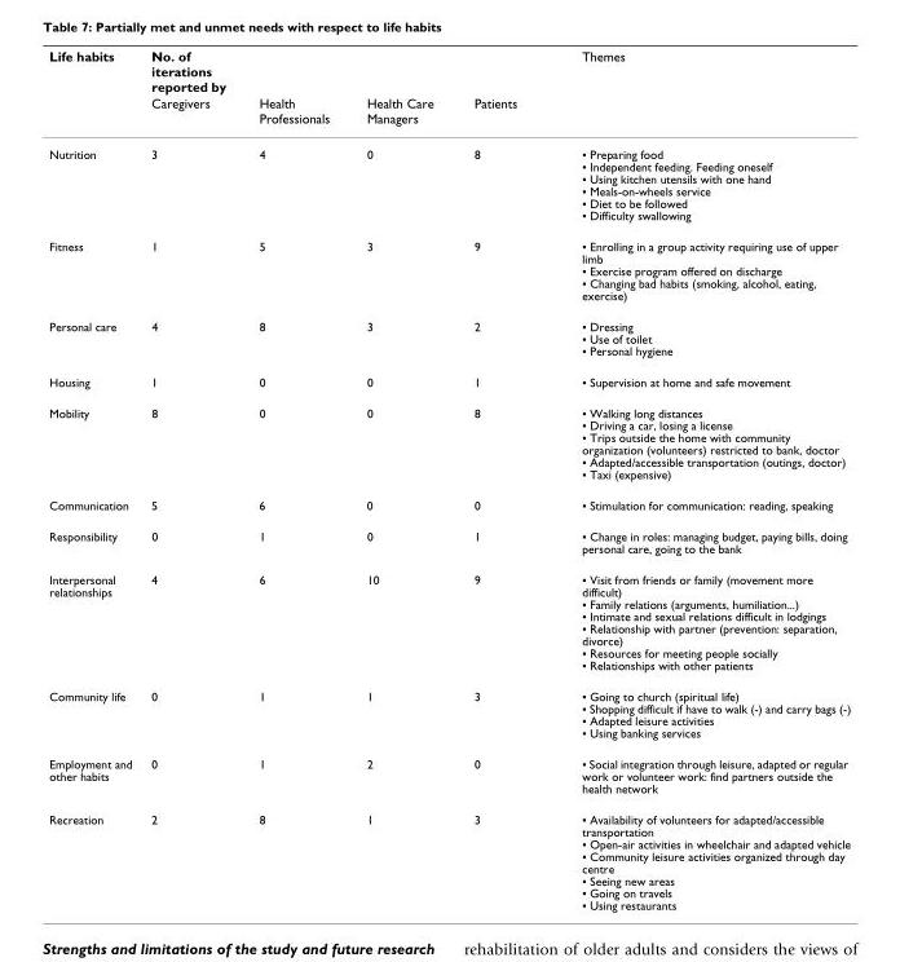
<table><thead><tr><td rowspan="2">Life habits</td><td rowspan="2">No. of iterations reported by Caregivers</td><td rowspan="2">Health Professionals</td><td rowspan="2">Health Care Managers</td><td rowspan="2">Patients</td><td rowspan="2">Themes</td></tr><tr></tr></thead><tbody><tr><td>Nutrition</td><td>3</td><td>4</td><td>0</td><td>8</td><td>▪ Preparing food ▪ Independent feeding. Feeding oneself ▪ Using kitchen utensils with one hand ▪ Meals-on-wheels service ▪ Diet to be followed ▪ Difficulty swallowing</td></tr><tr><td>Fitness</td><td>1</td><td>5</td><td>3</td><td>9</td><td>▪ Enrolling in a group activity requiring use of upper limb ▪ Exercise program offered on discharge ▪ Changing bad habits (smoking, alcohol, eating, exercise)</td></tr><tr><td>Personal care</td><td>4</td><td>8</td><td>3</td><td>2</td><td>▪ Dressing ▪ Use of toilet ▪ Personal hygiene</td></tr><tr><td>Housing</td><td>1</td><td>0</td><td>0</td><td>1</td><td>▪ Supervision at home and safe movement</td></tr><tr><td>Mobility</td><td>8</td><td>0</td><td>0</td><td>8</td><td>▪ Walking long distances ▪ Driving a car, losing a license ▪ Trips outside the home with community organization (volunteers) restricted to bank, doctor ▪ Adapted/accessible transportation (outings, doctor) ▪ Taxi (expensive)</td></tr><tr><td>Communication</td><td>5</td><td>6</td><td>0</td><td>0</td><td>▪ Stimulation for communication: reading, speaking</td></tr><tr><td>Responsibility</td><td>0</td><td>1</td><td>0</td><td>1</td><td>▪ Change in roles: managing budget, paying bills, doing personal care, going to the bank</td></tr><tr><td>Interpersonal relationships</td><td>4</td><td>6</td><td>10</td><td>9</td><td>▪ Visit from friends or family (movement more difficult) ▪ Family relations (arguments, humiliation...) ▪ Intimate and sexual relations difficult in lodgings ▪ Relationship with partner (prevention: separation, divorce) ▪ Resources for meeting people socially ▪ Relationships with other patients</td></tr><tr><td>Community life</td><td>0</td><td>1</td><td>1</td><td>3</td><td>▪ Going to church (spiritual life) ▪ Shopping difficult if have to walk (-) and carry bags (-) ▪ Adapted leisure activities ▪ Using banking services</td></tr><tr><td>Employment and other habits</td><td>0</td><td>1</td><td>2</td><td>0</td><td>▪ Social integration through leisure, adapted or regular work or volunteer work: find partners outside the health network</td></tr><tr><td>Recreation</td><td>2</td><td>8</td><td>1</td><td>3</td><td>▪ Availability of volunteers for adapted/accessible transportation ▪ Open-air activities in wheelchair and adapted vehicle ▪ Community leisure activities organized through day centre ▪ Seeing new areas ▪ Going on travels ▪ Using restaurants</td></tr></tbody></table>